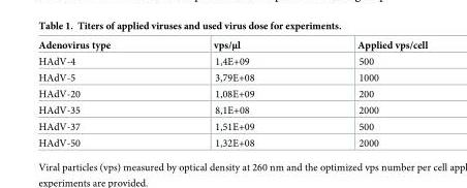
<table><thead><tr><td>Adenovirus type</td><td>vps/μl</td><td>Applied vps/cell</td></tr></thead><tbody><tr><td>HAdV-4</td><td>1,4E+09</td><td>500</td></tr><tr><td>HAdV-5</td><td>3,79E+08</td><td>1000</td></tr><tr><td>HAdV-20</td><td>1,08E+09</td><td>200</td></tr><tr><td>HAdV-35</td><td>8,1E+08</td><td>2000</td></tr><tr><td>HAdV-37</td><td>1,51E+09</td><td>500</td></tr><tr><td>HAdV-50</td><td>1,32E+08</td><td>2000</td></tr></tbody></table>